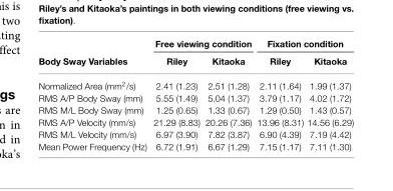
<table><thead><tr><td rowspan="2">Body Sway Variables</td><td colspan="2">Free viewing condition</td><td colspan="2">Fixation condition</td></tr><tr><td>Riley</td><td>Kitaoka</td><td>Riley</td><td>Kitaoka</td></tr></thead><tbody><tr><td>Normalized Area (mm<sup>2</sup>/s)</td><td>2.41 (1.23)</td><td>2.51 (1.28)</td><td>2.11 (1.64)</td><td>1.99 (1.37)</td></tr><tr><td>RMS A/P Body Sway (mm)</td><td>5.55 (1.49)</td><td>5.04 (1.37)</td><td>3.79 (1.17)</td><td>4.02 (1.72)</td></tr><tr><td>RMS M/L Body Sway (mm)</td><td>1.25 (0.65)</td><td>1.33 (0.67)</td><td>1.29 (0.50)</td><td>1.43 (0.57)</td></tr><tr><td>RMS A/P Velocity (mm/s)</td><td>21.29 (8.83)</td><td>20.26 (7.36)</td><td>13.96 (8.31)</td><td>14.56 (6.29)</td></tr><tr><td>RMS M/L Velocity (mm/s)</td><td>6.97 (3.90)</td><td>7.82 (3.87)</td><td>6.90 (4.39)</td><td>7.19 (4.42)</td></tr><tr><td>Mean Power Frequency (Hz)</td><td>6.72 (1.91)</td><td>6.67 (1.29)</td><td>7.15 (1.17)</td><td>7.11 (1.30)</td></tr></tbody></table>